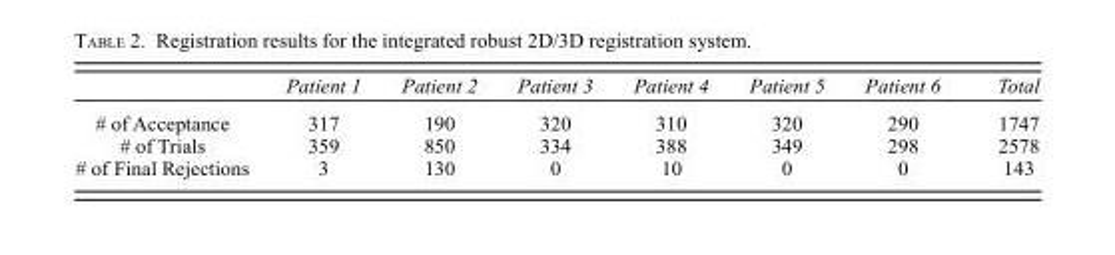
<table><thead><tr><td></td><td>Patient 1</td><td>Patient 2</td><td>Patient 3</td><td>Patient 4</td><td>Patient 5</td><td>Patient 6</td><td>Total</td></tr></thead><tbody><tr><td># of Acceptance</td><td>317</td><td>190</td><td>320</td><td>310</td><td>320</td><td>290</td><td>1747</td></tr><tr><td># of Trials</td><td>359</td><td>850</td><td>334</td><td>388</td><td>349</td><td>298</td><td>2578</td></tr><tr><td># of Final Rejections</td><td>3</td><td>130</td><td>0</td><td>10</td><td>0</td><td>0</td><td>143</td></tr></tbody></table>